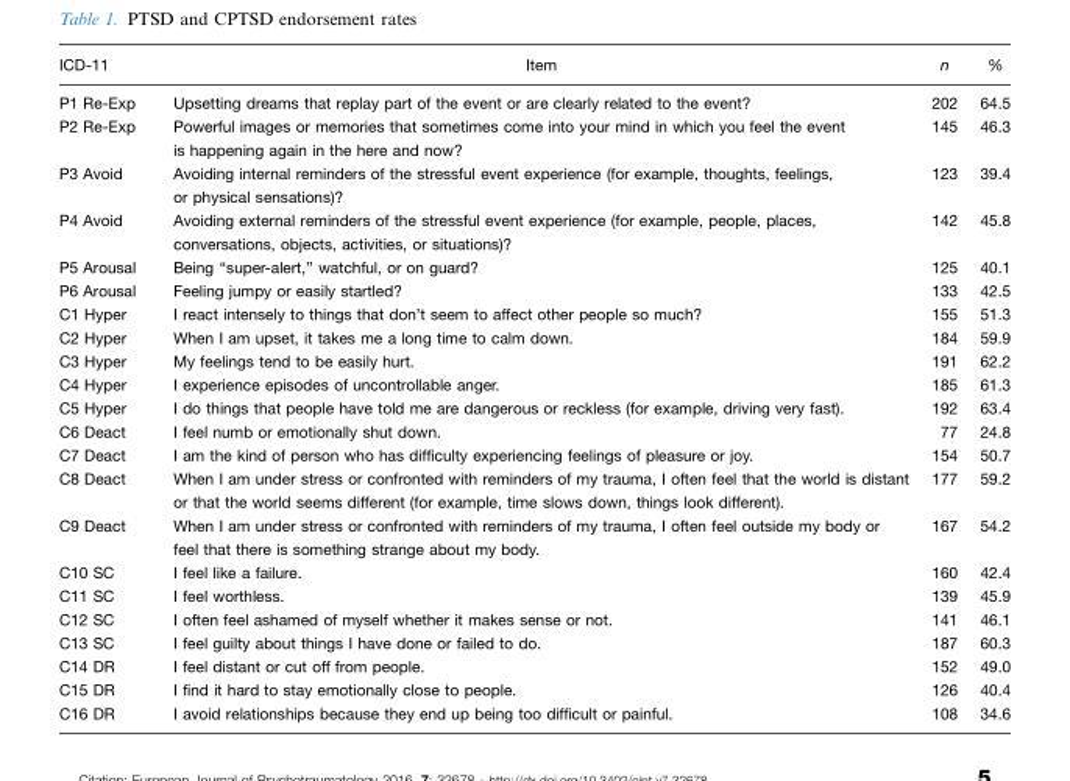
<table><thead><tr><td>ICD-11</td><td>Item</td><td>n</td><td>%</td></tr></thead><tbody><tr><td>P1 Re-Exp</td><td>Upsetting dreams that replay part of the event or are clearly related to the event?</td><td>202</td><td>64.5</td></tr><tr><td>P2 Re-Exp</td><td>Powerful images or memories that sometimes come into your mind in which you feel the event is happening again in the here and now?</td><td>145</td><td>46.3</td></tr><tr><td>P3 Avoid</td><td>Avoiding internal reminders of the stressful event experience (for example, thoughts, feelings, or physical sensations)?</td><td>123</td><td>39.4</td></tr><tr><td>P4 Avoid</td><td>Avoiding external reminders of the stressful event experience (for example, people, places, conversations, objects, activities, or situations)?</td><td>142</td><td>45.8</td></tr><tr><td>P5 Arousal</td><td>Being ‘‘super-alert,’’ watchful, or on guard?</td><td>125</td><td>40.1</td></tr><tr><td>P6 Arousal</td><td>Feeling jumpy or easily startled?</td><td>133</td><td>42.5</td></tr><tr><td>C1 Hyper</td><td>I react intensely to things that don’t seem to affect other people so much?</td><td>155</td><td>51.3</td></tr><tr><td>C2 Hyper</td><td>When I am upset, it takes me a long time to calm down.</td><td>184</td><td>59.9</td></tr><tr><td>C3 Hyper</td><td>My feelings tend to be easily hurt.</td><td>191</td><td>62.2</td></tr><tr><td>C4 Hyper</td><td>I experience episodes of uncontrollable anger.</td><td>185</td><td>61.3</td></tr><tr><td>C5 Hyper</td><td>I do things that people have told me are dangerous or reckless (for example, driving very fast).</td><td>192</td><td>63.4</td></tr><tr><td>C6 Deact</td><td>I feel numb or emotionally shut down.</td><td>77</td><td>24.8</td></tr><tr><td>C7 Deact</td><td>I am the kind of person who has difficulty experiencing feelings of pleasure or joy.</td><td>154</td><td>50.7</td></tr><tr><td>C8 Deact</td><td>When I am under stress or confronted with reminders of my trauma, I often feel that the world is distant or that the world seems different (for example, time slows down, things look different).</td><td>177</td><td>59.2</td></tr><tr><td>C9 Deact</td><td>When I am under stress or confronted with reminders of my trauma, I often feel outside my body or feel that there is something strange about my body.</td><td>167</td><td>54.2</td></tr><tr><td>C10 SC</td><td>I feel like a failure.</td><td>160</td><td>42.4</td></tr><tr><td>C11 SC</td><td>I feel worthless.</td><td>139</td><td>45.9</td></tr><tr><td>C12 SC</td><td>I often feel ashamed of myself whether it makes sense or not.</td><td>141</td><td>46.1</td></tr><tr><td>C13 SC</td><td>I feel guilty about things I have done or failed to do.</td><td>187</td><td>60.3</td></tr><tr><td>C14 DR</td><td>I feel distant or cut off from people.</td><td>152</td><td>49.0</td></tr><tr><td>C15 DR</td><td>I find it hard to stay emotionally close to people.</td><td>126</td><td>40.4</td></tr><tr><td>C16 DR</td><td>I avoid relationships because they end up being too difficult or painful.</td><td>108</td><td>34.6</td></tr></tbody></table>